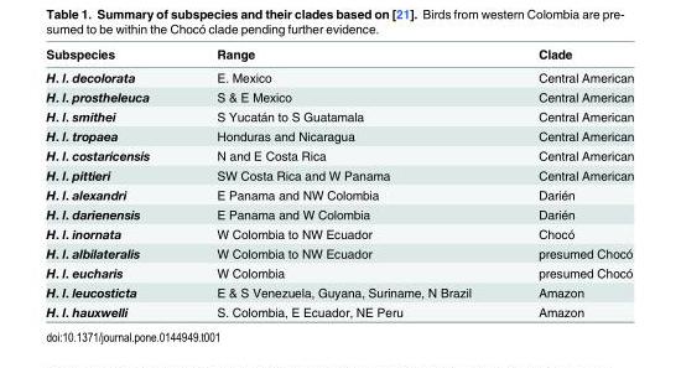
<table><thead><tr><td>Subspecies</td><td>Range</td><td>Clade</td></tr></thead><tbody><tr><td>H. l. decolorata</td><td>E. Mexico</td><td>Central American</td></tr><tr><td>H. l. prostheleuca</td><td>S &amp; E Mexico</td><td>Central American</td></tr><tr><td>H. l. smithei</td><td>S Yucatán to S Guatamala</td><td>Central American</td></tr><tr><td>H. l. tropaea</td><td>Honduras and Nicaragua</td><td>Central American</td></tr><tr><td>H. l. costaricensis</td><td>N and E Costa Rica</td><td>Central American</td></tr><tr><td>H. l. pittieri</td><td>SW Costa Rica and W Panama</td><td>Central American</td></tr><tr><td>H. l. alexandri</td><td>E Panama and NW Colombia</td><td>Darién</td></tr><tr><td>H. l. darienensis</td><td>E Panama and W Colombia</td><td>Darién</td></tr><tr><td>H. l. inornata</td><td>W Colombia to NW Ecuador</td><td>Chocó</td></tr><tr><td>H. l. albilateralis</td><td>W Colombia to NW Ecuador</td><td>presumed Chocó</td></tr><tr><td>H. l. eucharis</td><td>W Colombia</td><td>presumed Chocó</td></tr><tr><td>H. l. leucosticta</td><td>E &amp; S Venezuela, Guyana, Suriname, N Brazil</td><td>Amazon</td></tr><tr><td>H. l. hauxwelli</td><td>S. Colombia, E Ecuador, NE Peru</td><td>Amazon</td></tr></tbody></table>